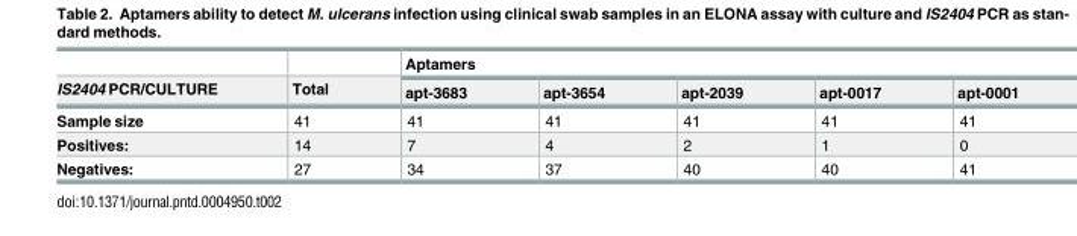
<table><thead><tr><td rowspan="2">IS2404 PCR/CULTURE</td><td rowspan="2">Total</td><td colspan="5">Aptamers</td></tr><tr><td>apt-3683</td><td>apt-3654</td><td>apt-2039</td><td>apt-0017</td><td>apt-0001</td></tr></thead><tbody><tr><td>Sample size</td><td>41</td><td>41</td><td>41</td><td>41</td><td>41</td><td>41</td></tr><tr><td>Positives:</td><td>14</td><td>7</td><td>4</td><td>2</td><td>1</td><td>0</td></tr><tr><td>Negatives:</td><td>27</td><td>34</td><td>37</td><td>40</td><td>40</td><td>41</td></tr></tbody></table>